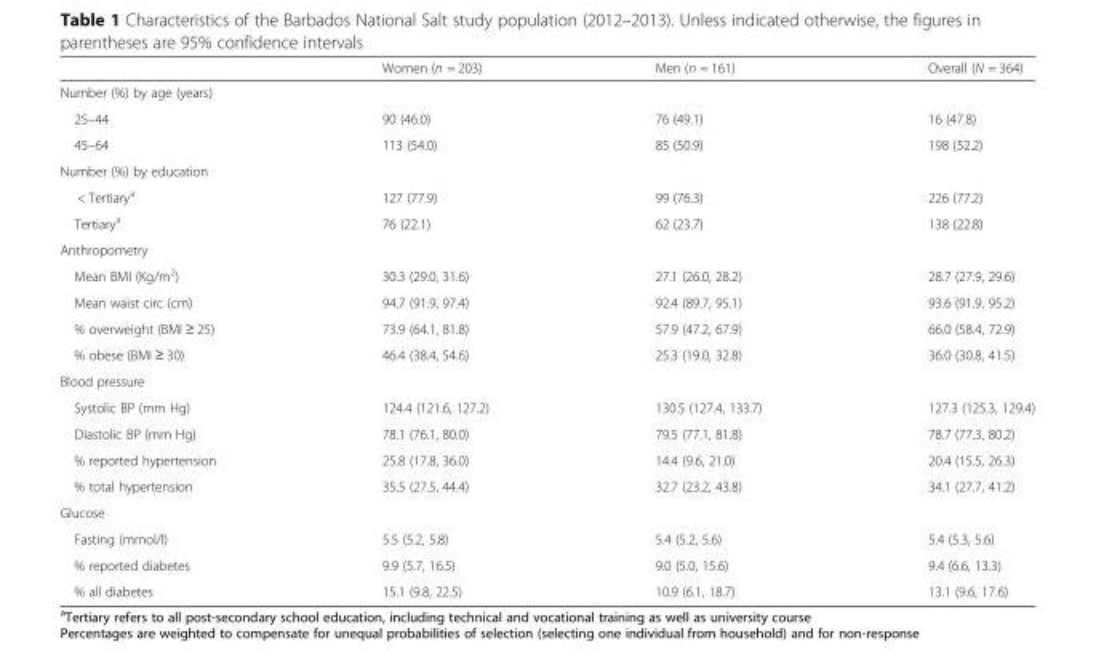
<table><thead><tr><td></td><td>Women (n = 203)</td><td>Men (n = 161)</td><td>Overall (N = 364)</td></tr></thead><tbody><tr><td colspan="4">Number (%) by age (years)</td></tr><tr><td>25–44</td><td>90 (46.0)</td><td>76 (49.1)</td><td>16 (47.8)</td></tr><tr><td>45–64</td><td>113 (54.0)</td><td>85 (50.9)</td><td>198 (52.2)</td></tr><tr><td colspan="4">Number (%) by education</td></tr><tr><td>&lt; Tertiary<sup>a</sup></td><td>127 (77.9)</td><td>99 (76.3)</td><td>226 (77.2)</td></tr><tr><td>Tertiary<sup>a</sup></td><td>76 (22.1)</td><td>62 (23.7)</td><td>138 (22.8)</td></tr><tr><td colspan="4">Anthropometry</td></tr><tr><td>Mean BMI (Kg/m<sup>2</sup>)</td><td>30.3 (29.0, 31.6)</td><td>27.1 (26.0, 28.2)</td><td>28.7 (27.9, 29.6)</td></tr><tr><td>Mean waist circ (cm)</td><td>94.7 (91.9, 97.4)</td><td>92.4 (89.7, 95.1)</td><td>93.6 (91.9, 95.2)</td></tr><tr><td>% overweight (BMI ≥ 25)</td><td>73.9 (64.1, 81.8)</td><td>57.9 (47.2, 67.9)</td><td>66.0 (58.4, 72.9)</td></tr><tr><td>% obese (BMI ≥ 30)</td><td>46.4 (38.4, 54.6)</td><td>25.3 (19.0, 32.8)</td><td>36.0 (30.8, 41.5)</td></tr><tr><td colspan="4">Blood pressure</td></tr><tr><td>Systolic BP (mm Hg)</td><td>124.4 (121.6, 127.2)</td><td>130.5 (127.4, 133.7)</td><td>127.3 (125.3, 129.4)</td></tr><tr><td>Diastolic BP (mm Hg)</td><td>78.1 (76.1, 80.0)</td><td>79.5 (77.1, 81.8)</td><td>78.7 (77.3, 80.2)</td></tr><tr><td>% reported hypertension</td><td>25.8 (17.8, 36.0)</td><td>14.4 (9.6, 21.0)</td><td>20.4 (15.5, 26.3)</td></tr><tr><td>% total hypertension</td><td>35.5 (27.5, 44.4)</td><td>32.7 (23.2, 43.8)</td><td>34.1 (27.7, 41.2)</td></tr><tr><td colspan="4">Glucose</td></tr><tr><td>Fasting (mmol/l)</td><td>5.5 (5.2, 5.8)</td><td>5.4 (5.2, 5.6)</td><td>5.4 (5.3, 5.6)</td></tr><tr><td>% reported diabetes</td><td>9.9 (5.7, 16.5)</td><td>9.0 (5.0, 15.6)</td><td>9.4 (6.6, 13.3)</td></tr><tr><td>% all diabetes</td><td>15.1 (9.8, 22.5)</td><td>10.9 (6.1, 18.7)</td><td>13.1 (9.6, 17.6)</td></tr></tbody></table>